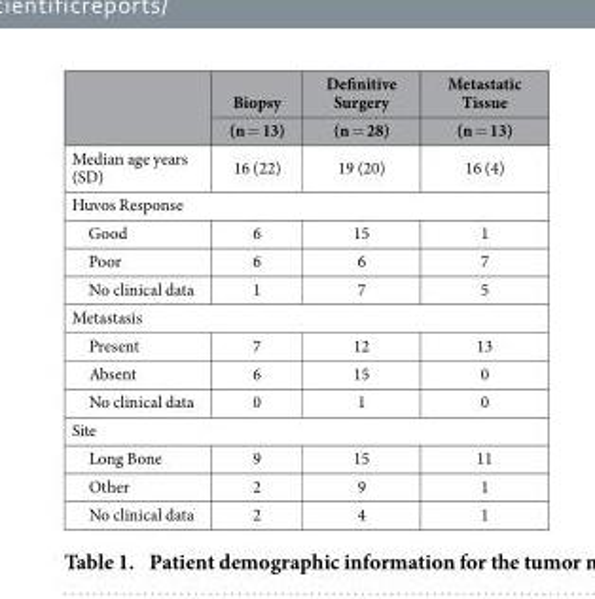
<table><thead><tr><td rowspan="2"></td><td rowspan="2">Biopsy (n = 13)</td><td rowspan="2">Definitive Surgery (n = 28)</td><td rowspan="2">Metastatic Tissue (n = 13)</td></tr><tr></tr></thead><tbody><tr><td>Median age years (SD)</td><td>16 (22)</td><td>19 (20)</td><td>16 (4)</td></tr><tr><td colspan="4">Huvos Response</td></tr><tr><td>Good</td><td>6</td><td>15</td><td>1</td></tr><tr><td>Poor</td><td>6</td><td>6</td><td>7</td></tr><tr><td>No clinical data</td><td>1</td><td>7</td><td>5</td></tr><tr><td colspan="4">Metastasis</td></tr><tr><td>Present</td><td>7</td><td>12</td><td>13</td></tr><tr><td>Absent</td><td>6</td><td>15</td><td>0</td></tr><tr><td>No clinical data</td><td>0</td><td>1</td><td>0</td></tr><tr><td colspan="4">Site</td></tr><tr><td>Long Bone</td><td>9</td><td>15</td><td>11</td></tr><tr><td>Other</td><td>2</td><td>9</td><td>1</td></tr><tr><td>No clinical data</td><td>2</td><td>4</td><td>1</td></tr></tbody></table>